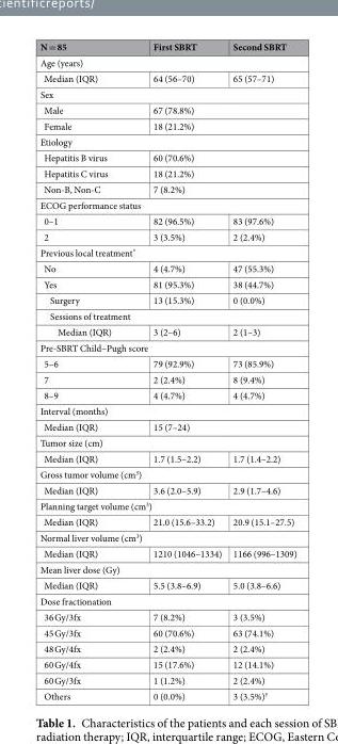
<table><thead><tr><td>N = 85</td><td>First SBRT</td><td>Second SBRT</td></tr></thead><tbody><tr><td colspan="3">Age (years)</td></tr><tr><td>Median (IQR)</td><td>64 (56–70)</td><td>65 (57–71)</td></tr><tr><td colspan="3">Sex</td></tr><tr><td>Male</td><td colspan="2">67 (78.8%)</td></tr><tr><td>Female</td><td colspan="2">18 (21.2%)</td></tr><tr><td colspan="3">Etiology</td></tr><tr><td>Hepatitis B virus</td><td colspan="2">60 (70.6%)</td></tr><tr><td>Hepatitis C virus</td><td colspan="2">18 (21.2%)</td></tr><tr><td>Non-B, Non-C</td><td colspan="2">7 (8.2%)</td></tr><tr><td colspan="3">ECOG performance status</td></tr><tr><td>0–1</td><td>82 (96.5%)</td><td>83 (97.6%)</td></tr><tr><td>2</td><td>3 (3.5%)</td><td>2 (2.4%)</td></tr><tr><td colspan="3">Previous local treatment*</td></tr><tr><td>No</td><td>4 (4.7%)</td><td>47 (55.3%)</td></tr><tr><td>Yes</td><td>81 (95.3%)</td><td>38 (44.7%)</td></tr><tr><td>Surgery</td><td>13 (15.3%)</td><td>0 (0.0%)</td></tr><tr><td colspan="3">Sessions of treatment</td></tr><tr><td>Median (IQR)</td><td>3 (2–6)</td><td>2 (1–3)</td></tr><tr><td colspan="3">Pre-SBRT Child–Pugh score</td></tr><tr><td>5–6</td><td>79 (92.9%)</td><td>73 (85.9%)</td></tr><tr><td>7</td><td>2 (2.4%)</td><td>8 (9.4%)</td></tr><tr><td>8–9</td><td>4 (4.7%)</td><td>4 (4.7%)</td></tr><tr><td colspan="3">Interval (months)</td></tr><tr><td>Median (IQR)</td><td colspan="2">15 (7–24)</td></tr><tr><td colspan="3">Tumor size (cm)</td></tr><tr><td>Median (IQR)</td><td>1.7 (1.5–2.2)</td><td>1.7 (1.4–2.2)</td></tr><tr><td colspan="3">Gross tumor volume (cm<sup>3</sup>)</td></tr><tr><td>Median (IQR)</td><td>3.6 (2.0–5.9)</td><td>2.9 (1.7–4.6)</td></tr><tr><td colspan="3">Planning target volume (cm<sup>3</sup>)</td></tr><tr><td>Median (IQR)</td><td>21.0 (15.6–33.2)</td><td>20.9 (15.1–27.5)</td></tr><tr><td colspan="3">Normal liver volume (cm<sup>3</sup>)</td></tr><tr><td>Median (IQR)</td><td>1210 (1046–1334)</td><td>1166 (996–1309)</td></tr><tr><td colspan="3">Mean liver dose (Gy)</td></tr><tr><td>Median (IQR)</td><td>5.5 (3.8–6.9)</td><td>5.0 (3.8–6.6)</td></tr><tr><td colspan="3">Dose fractionation</td></tr><tr><td>36 Gy/3fx</td><td>7 (8.2%)</td><td>3 (3.5%)</td></tr><tr><td>45 Gy/3fx</td><td>60 (70.6%)</td><td>63 (74.1%)</td></tr><tr><td>48 Gy/4fx</td><td>2 (2.4%)</td><td>2 (2.4%)</td></tr><tr><td>60 Gy/4fx</td><td>15 (17.6%)</td><td>12 (14.1%)</td></tr><tr><td>60 Gy/3fx</td><td>1 (1.2%)</td><td>2 (2.4%)</td></tr><tr><td>Others</td><td>0 (0.0%)</td><td>3 (3.5%)<sup>†</sup></td></tr></tbody></table>